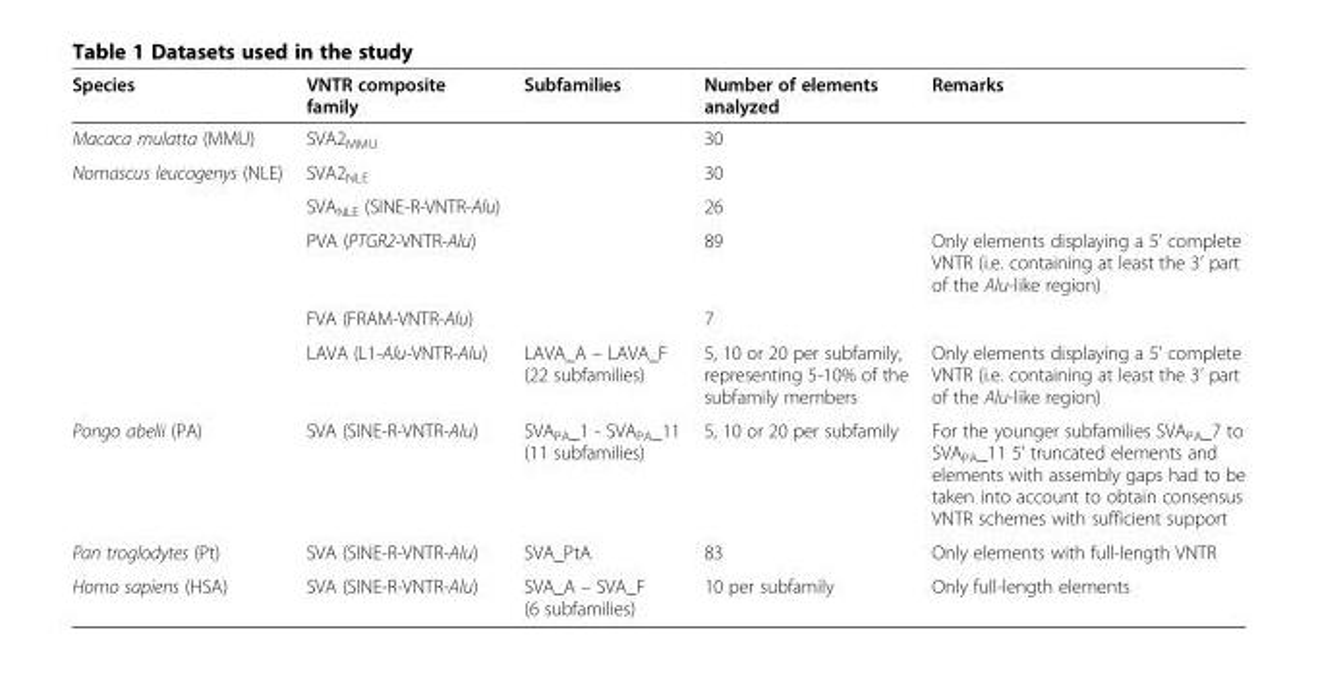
<table><thead><tr><td>Species</td><td>VNTR composite family</td><td>Subfamilies</td><td>Number of elements analyzed</td><td>Remarks</td></tr></thead><tbody><tr><td>Macaca mulatta (MMU)</td><td>SVA2<sub>MMU</sub></td><td></td><td>30</td><td></td></tr><tr><td rowspan="5">Nomascus leucogenys (NLE)</td><td>SVA2<sub>NLE</sub></td><td></td><td>30</td><td></td></tr><tr><td>SVA<sub>NLE</sub> (SINE-R-VNTR-Alu)</td><td></td><td>26</td><td></td></tr><tr><td>PVA (PTGR2-VNTR-Alu)</td><td></td><td>89</td><td>Only elements displaying a 5’ complete VNTR (i.e. containing at least the 3’ part of the Alu-like region)</td></tr><tr><td>FVA (FRAM-VNTR-Alu)</td><td></td><td>7</td><td></td></tr><tr><td>LAVA (L1-Alu-VNTR-Alu)</td><td>LAVA_A – LAVA_F (22 subfamilies)</td><td>5, 10 or 20 per subfamily, representing 5-10% of the subfamily members</td><td>Only elements displaying a 5’ complete VNTR (i.e. containing at least the 3’ part of the Alu-like region)</td></tr><tr><td>Pongo abelii (PA)</td><td>SVA (SINE-R-VNTR-Alu)</td><td>SVAPA_1 - SVAPA_11 (11 subfamilies)</td><td>5, 10 or 20 per subfamily</td><td>For the younger subfamilies SVAPA_7 to SVAPA_11 5’ truncated elements and elements with assembly gaps had to be taken into account to obtain consensus VNTR schemes with sufficient support</td></tr><tr><td>Pan troglodytes (Pt)</td><td>SVA (SINE-R-VNTR-Alu)</td><td>SVA_PtA</td><td>83</td><td>Only elements with full-length VNTR</td></tr><tr><td>Homo sapiens (HSA)</td><td>SVA (SINE-R-VNTR-Alu)</td><td>SVA_A – SVA_F (6 subfamilies)</td><td>10 per subfamily</td><td>Only full-length elements</td></tr></tbody></table>